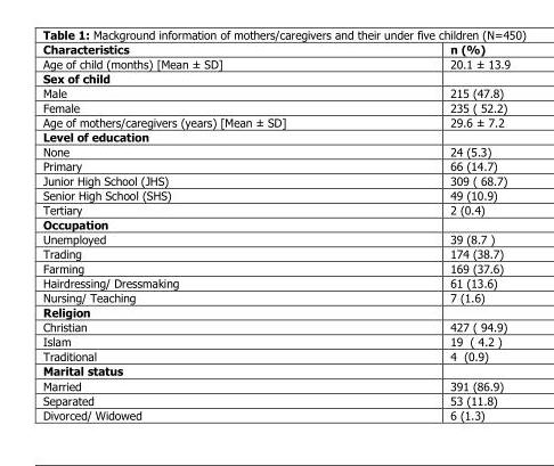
<table><thead><tr><td>Characteristics</td><td>n (%)</td></tr></thead><tbody><tr><td>Age of child (months) [Mean ± SD]</td><td>20.1 ± 13.9</td></tr><tr><td colspan="2">Sex of child</td></tr><tr><td>Male</td><td>215 (47.8)</td></tr><tr><td>Female</td><td>235 ( 52.2)</td></tr><tr><td>Age of mothers/caregivers (years) [Mean ± SD]</td><td>29.6 ± 7.2</td></tr><tr><td colspan="2">Level of education</td></tr><tr><td>None</td><td>24 (5.3)</td></tr><tr><td>Primary</td><td>66 (14.7)</td></tr><tr><td>Junior High School (JHS)</td><td>309 ( 68.7)</td></tr><tr><td>Senior High School (SHS)</td><td>49 (10.9)</td></tr><tr><td>Tertiary</td><td>2 (0.4)</td></tr><tr><td colspan="2">Occupation</td></tr><tr><td>Unemployed</td><td>39 (8.7 )</td></tr><tr><td>Trading</td><td>174 (38.7)</td></tr><tr><td>Farming</td><td>169 (37.6)</td></tr><tr><td>Hairdressing/ Dressmaking</td><td>61 (13.6)</td></tr><tr><td>Nursing/ Teaching</td><td>7 (1.6)</td></tr><tr><td colspan="2">Religion</td></tr><tr><td>Christian</td><td>427 ( 94.9)</td></tr><tr><td>Islam</td><td>19 ( 4.2 )</td></tr><tr><td>Traditional</td><td>4 (0.9)</td></tr><tr><td colspan="2">Marital status</td></tr><tr><td>Married</td><td>391 (86.9)</td></tr><tr><td>Separated</td><td>53 (11.8)</td></tr><tr><td>Divorced/ Widowed</td><td>6 (1.3)</td></tr></tbody></table>